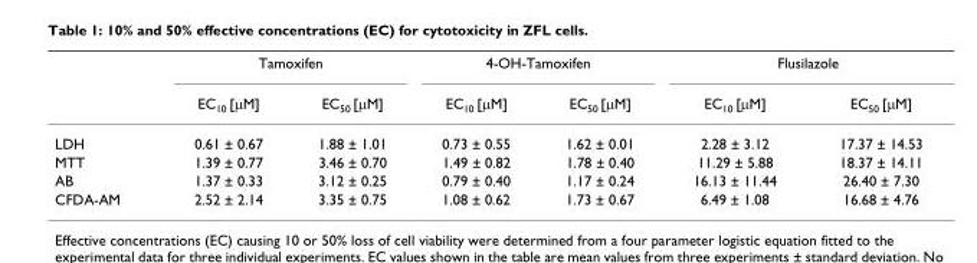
<table><thead><tr><td rowspan="2"></td><td colspan="2">Tamoxifen</td><td colspan="2">4-OH-Tamoxifen</td><td colspan="2">Flusilazole</td></tr><tr><td>EC<sub>10</sub> [μM]</td><td>EC<sub>50</sub> [μM]</td><td>EC<sub>10</sub> [μM]</td><td>EC<sub>50</sub> [μM]</td><td>EC<sub>10</sub> [μM]</td><td>EC<sub>50</sub> [μM]</td></tr></thead><tbody><tr><td>LDH</td><td>0.61 ± 0.67</td><td>1.88 ± 1.01</td><td>0.73 ± 0.55</td><td>1.62 ± 0.01</td><td>2.28 ± 3.12</td><td>17.37 ± 14.53</td></tr><tr><td>MTT</td><td>1.39 ± 0.77</td><td>3.46 ± 0.70</td><td>1.49 ± 0.82</td><td>1.78 ± 0.40</td><td>11.29 ± 5.88</td><td>18.37 ± 14.11</td></tr><tr><td>AB</td><td>1.37 ± 0.33</td><td>3.12 ± 0.25</td><td>0.79 ± 0.40</td><td>1.17 ± 0.24</td><td>16.13 ± 11.44</td><td>26.40 ± 7.30</td></tr><tr><td>CFDA-AM</td><td>2.52 ± 2.14</td><td>3.35 ± 0.75</td><td>1.08 ± 0.62</td><td>1.73 ± 0.67</td><td>6.49 ± 1.08</td><td>16.68 ± 4.76</td></tr></tbody></table>